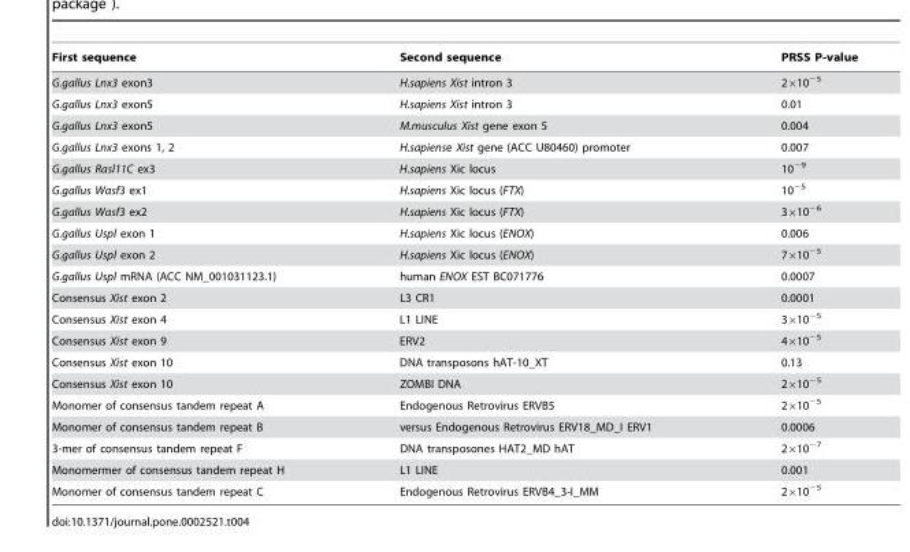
<table><thead><tr><td>First sequence</td><td>Second sequence</td><td>PRSS P-value</td></tr></thead><tbody><tr><td>G.gallus Lnx3 exon3</td><td>H.sapiens Xist intron 3</td><td>2×10<sup>−5</sup></td></tr><tr><td>G.gallus Lnx3 exon5</td><td>H.sapiens Xist intron 3</td><td>0.01</td></tr><tr><td>G.gallus Lnx3 exon5</td><td>M.musculus Xist gene exon 5</td><td>0.004</td></tr><tr><td>G.gallus Lnx3 exons 1, 2</td><td>H.sapiense Xist gene (ACC U80460) promoter</td><td>0.007</td></tr><tr><td>G.gallus Rasl11C ex3</td><td>H.sapiens Xic locus</td><td>10<sup>−9</sup></td></tr><tr><td>G.gallus Wasf3 ex1</td><td>H.sapiens Xic locus (FTX)</td><td>10<sup>−5</sup></td></tr><tr><td>G.gallus Wasf3 ex2</td><td>H.sapiens Xic locus (FTX)</td><td>3×10<sup>−6</sup></td></tr><tr><td>G.gallus Uspl exon 1</td><td>H.sapiens Xic locus (ENOX)</td><td>0.006</td></tr><tr><td>G.gallus Uspl exon 2</td><td>H.sapiens Xic locus (ENOX)</td><td>7×10<sup>−5</sup></td></tr><tr><td>G.gallus Uspl mRNA (ACC NM_001031123.1)</td><td>human ENOX EST BC071776</td><td>0.0007</td></tr><tr><td>Consensus Xist exon 2</td><td>L3 CR1</td><td>0.0001</td></tr><tr><td>Consensus Xist exon 4</td><td>L1 LINE</td><td>3×10<sup>−5</sup></td></tr><tr><td>Consensus Xist exon 9</td><td>ERV2</td><td>4×10<sup>−5</sup></td></tr><tr><td>Consensus Xist exon 10</td><td>DNA transposons hAT-10_XT</td><td>0.13</td></tr><tr><td>Consensus Xist exon 10</td><td>ZOMBI DNA</td><td>2×10<sup>−5</sup></td></tr><tr><td>Monomer of consensus tandem repeat A</td><td>Endogenous Retrovirus ERVB5</td><td>2×10<sup>−5</sup></td></tr><tr><td>Monomer of consensus tandem repeat B</td><td>versus Endogenous Retrovirus ERV18_MD_I ERV1</td><td>0.0006</td></tr><tr><td>3-mer of consensus tandem repeat F</td><td>DNA transposones HAT2_MD hAT</td><td>2×10<sup>−7</sup></td></tr><tr><td>Monomermer of consensus tandem repeat H</td><td>L1 LINE</td><td>0.001</td></tr><tr><td>Monomer of consensus tandem repeat C</td><td>Endogenous Retrovirus ERVB4_3-I_MM</td><td>2×10<sup>−5</sup></td></tr></tbody></table>